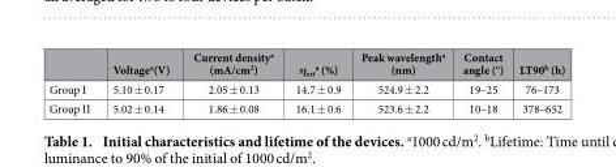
<table><thead><tr><td></td><td>Voltage<sup>a</sup>(V)</td><td>Current density<sup>a</sup> (mA/cm<sup>2</sup>)</td><td>η<sub>ext</sub> <sup>a</sup> (%)</td><td>Peak wavelength<sup>a</sup> (nm)</td><td>Contact angle (°)</td><td>LT90<sup>b</sup> (h)</td></tr></thead><tbody><tr><td>Group I</td><td>5.10 ± 0.17</td><td>2.05 ± 0.13</td><td>14.7 ± 0.9</td><td>524.9 ± 2.2</td><td>19–25</td><td>76–173</td></tr><tr><td>Group II</td><td>5.02 ± 0.14</td><td>1.86 ± 0.08</td><td>16.1 ± 0.6</td><td>523.6 ± 2.2</td><td>10–18</td><td>378–652</td></tr></tbody></table>